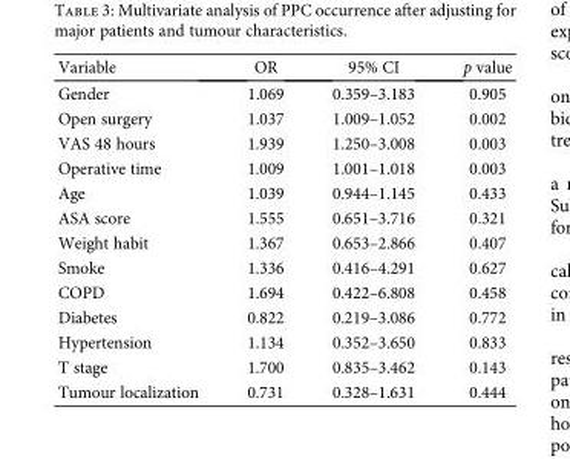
<table><thead><tr><td>Variable</td><td>OR</td><td>95% CI</td><td>p value</td></tr></thead><tbody><tr><td>Gender</td><td>1.069</td><td>0.359–3.183</td><td>0.905</td></tr><tr><td>Open surgery</td><td>1.037</td><td>1.009–1.052</td><td>0.002</td></tr><tr><td>VAS 48 hours</td><td>1.939</td><td>1.250–3.008</td><td>0.003</td></tr><tr><td>Operative time</td><td>1.009</td><td>1.001–1.018</td><td>0.003</td></tr><tr><td>Age</td><td>1.039</td><td>0.944–1.145</td><td>0.433</td></tr><tr><td>ASA score</td><td>1.555</td><td>0.651–3.716</td><td>0.321</td></tr><tr><td>Weight habit</td><td>1.367</td><td>0.653–2.866</td><td>0.407</td></tr><tr><td>Smoke</td><td>1.336</td><td>0.416–4.291</td><td>0.627</td></tr><tr><td>COPD</td><td>1.694</td><td>0.422–6.808</td><td>0.458</td></tr><tr><td>Diabetes</td><td>0.822</td><td>0.219–3.086</td><td>0.772</td></tr><tr><td>Hypertension</td><td>1.134</td><td>0.352–3.650</td><td>0.833</td></tr><tr><td>T stage</td><td>1.700</td><td>0.835–3.462</td><td>0.143</td></tr><tr><td>Tumour localization</td><td>0.731</td><td>0.328–1.631</td><td>0.444</td></tr></tbody></table>